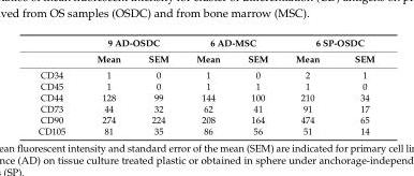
<table><thead><tr><td rowspan="2"></td><td colspan="2">9 AD-OSDC</td><td colspan="2">6 AD-MSC</td><td colspan="2">6 SP-OSDC</td></tr><tr><td>Mean</td><td>SEM</td><td>Mean</td><td>SEM</td><td>Mean</td><td>SEM</td></tr></thead><tbody><tr><td>CD34</td><td>1</td><td>0</td><td>1</td><td>0</td><td>2</td><td>1</td></tr><tr><td>CD45</td><td>1</td><td>0</td><td>1</td><td>1</td><td>1</td><td>0</td></tr><tr><td>CD44</td><td>128</td><td>99</td><td>144</td><td>100</td><td>210</td><td>34</td></tr><tr><td>CD73</td><td>44</td><td>32</td><td>62</td><td>41</td><td>91</td><td>17</td></tr><tr><td>CD90</td><td>274</td><td>224</td><td>208</td><td>164</td><td>474</td><td>65</td></tr><tr><td>CD105</td><td>81</td><td>35</td><td>86</td><td>56</td><td>51</td><td>14</td></tr></tbody></table>